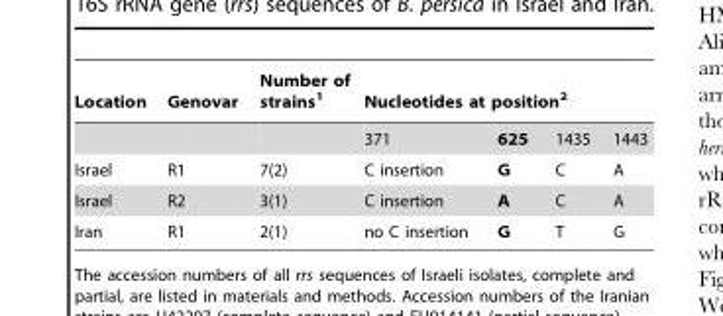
<table><thead><tr><td rowspan="2">Location</td><td rowspan="2">Genovar</td><td rowspan="2">Number of strains<sup>1</sup></td><td colspan="4">Nucleotides at position<sup>2</sup></td></tr><tr><td>371</td><td>625</td><td>1435</td><td>1443</td></tr></thead><tbody><tr><td>Israel</td><td>R1</td><td>7(2)</td><td>C insertion</td><td>G</td><td>C</td><td>A</td></tr><tr><td>Israel</td><td>R2</td><td>3(1)</td><td>C insertion</td><td>A</td><td>C</td><td>A</td></tr><tr><td>Iran</td><td>R1</td><td>2(1)</td><td>no C insertion</td><td>G</td><td>T</td><td>G</td></tr></tbody></table>